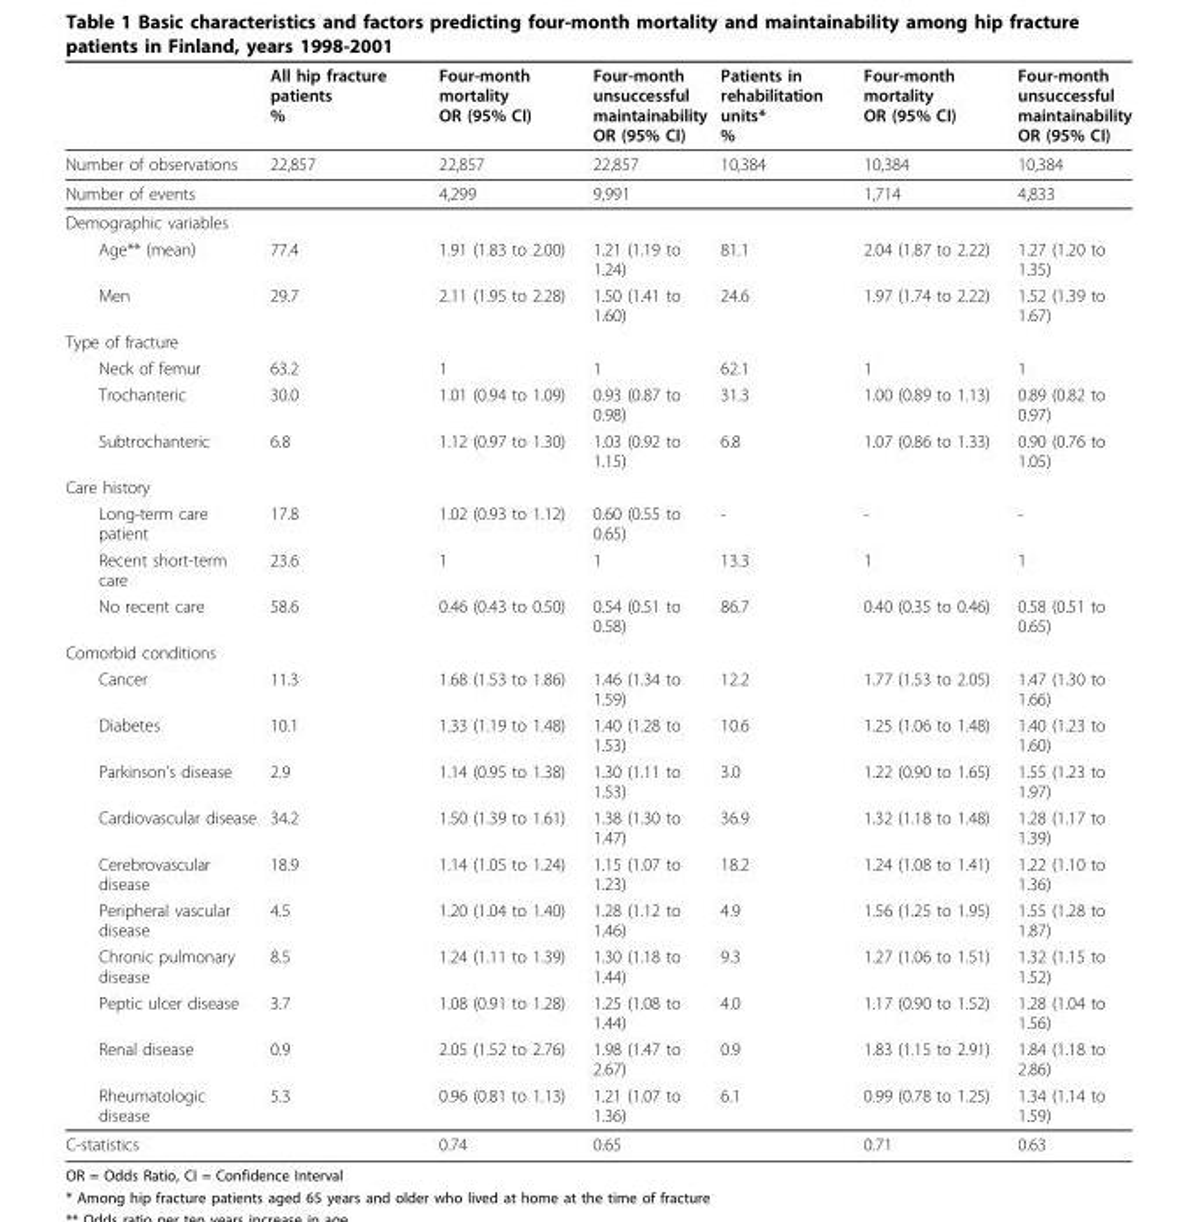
<table><thead><tr><td></td><td>All hip fracture patients %</td><td>Four-month mortality OR (95% CI)</td><td>Four-month unsuccessful maintainability OR (95% CI)</td><td>Patients in rehabilitation units* %</td><td>Four-month mortality OR (95% CI)</td><td>Four-month unsuccessful maintainability OR (95% CI)</td></tr></thead><tbody><tr><td>Number of observations</td><td>22,857</td><td>22,857</td><td>22,857</td><td>10,384</td><td>10,384</td><td>10,384</td></tr><tr><td>Number of events</td><td></td><td>4,299</td><td>9,991</td><td></td><td>1,714</td><td>4,833</td></tr><tr><td colspan="7">Demographic variables</td></tr><tr><td>Age** (mean)</td><td>77.4</td><td>1.91 (1.83 to 2.00)</td><td>1.21 (1.19 to 1.24)</td><td>81.1</td><td>2.04 (1.87 to 2.22)</td><td>1.27 (1.20 to 1.35)</td></tr><tr><td>Men</td><td>29.7</td><td>2.11 (1.95 to 2.28)</td><td>1.50 (1.41 to 1.60)</td><td>24.6</td><td>1.97 (1.74 to 2.22)</td><td>1.52 (1.39 to 1.67)</td></tr><tr><td colspan="7">Type of fracture</td></tr><tr><td>Neck of femur</td><td>63.2</td><td>1</td><td>1</td><td>62.1</td><td>1</td><td>1</td></tr><tr><td>Trochanteric</td><td>30.0</td><td>1.01 (0.94 to 1.09)</td><td>0.93 (0.87 to 0.98)</td><td>31.3</td><td>1.00 (0.89 to 1.13)</td><td>0.89 (0.82 to 0.97)</td></tr><tr><td>Subtrochanteric</td><td>6.8</td><td>1.12 (0.97 to 1.30)</td><td>1.03 (0.92 to 1.15)</td><td>6.8</td><td>1.07 (0.86 to 1.33)</td><td>0.90 (0.76 to 1.05)</td></tr><tr><td colspan="7">Care history</td></tr><tr><td>Long-term care patient</td><td>17.8</td><td>1.02 (0.93 to 1.12)</td><td>0.60 (0.55 to 0.65)</td><td>-</td><td>-</td><td>-</td></tr><tr><td>Recent short-term care</td><td>23.6</td><td>1</td><td>1</td><td>13.3</td><td>1</td><td>1</td></tr><tr><td>No recent care</td><td>58.6</td><td>0.46 (0.43 to 0.50)</td><td>0.54 (0.51 to 0.58)</td><td>86.7</td><td>0.40 (0.35 to 0.46)</td><td>0.58 (0.51 to 0.65)</td></tr><tr><td colspan="7">Comorbid conditions</td></tr><tr><td>Cancer</td><td>11.3</td><td>1.68 (1.53 to 1.86)</td><td>1.46 (1.34 to 1.59)</td><td>12.2</td><td>1.77 (1.53 to 2.05)</td><td>1.47 (1.30 to 1.66)</td></tr><tr><td>Diabetes</td><td>10.1</td><td>1.33 (1.19 to 1.48)</td><td>1.40 (1.28 to 1.53)</td><td>10.6</td><td>1.25 (1.06 to 1.48)</td><td>1.40 (1.23 to 1.60)</td></tr><tr><td>Parkinson’s disease</td><td>2.9</td><td>1.14 (0.95 to 1.38)</td><td>1.30 (1.11 to 1.53)</td><td>3.0</td><td>1.22 (0.90 to 1.65)</td><td>1.55 (1.23 to 1.97)</td></tr><tr><td>Cardiovascular disease</td><td>34.2</td><td>1.50 (1.39 to 1.61)</td><td>1.38 (1.30 to 1.47)</td><td>36.9</td><td>1.32 (1.18 to 1.48)</td><td>1.28 (1.17 to 1.39)</td></tr><tr><td>Cerebrovascular disease</td><td>18.9</td><td>1.14 (1.05 to 1.24)</td><td>1.15 (1.07 to 1.23)</td><td>18.2</td><td>1.24 (1.08 to 1.41)</td><td>1.22 (1.10 to 1.36)</td></tr><tr><td>Peripheral vascular disease</td><td>4.5</td><td>1.20 (1.04 to 1.40)</td><td>1.28 (1.12 to 1.46)</td><td>4.9</td><td>1.56 (1.25 to 1.95)</td><td>1.55 (1.28 to 1.87)</td></tr><tr><td>Chronic pulmonary disease</td><td>8.5</td><td>1.24 (1.11 to 1.39)</td><td>1.30 (1.18 to 1.44)</td><td>9.3</td><td>1.27 (1.06 to 1.51)</td><td>1.32 (1.15 to 1.52)</td></tr><tr><td>Peptic ulcer disease</td><td>3.7</td><td>1.08 (0.91 to 1.28)</td><td>1.25 (1.08 to 1.44)</td><td>4.0</td><td>1.17 (0.90 to 1.52)</td><td>1.28 (1.04 to 1.56)</td></tr><tr><td>Renal disease</td><td>0.9</td><td>2.05 (1.52 to 2.76)</td><td>1.98 (1.47 to 2.67)</td><td>0.9</td><td>1.83 (1.15 to 2.91)</td><td>1.84 (1.18 to 2.86)</td></tr><tr><td>Rheumatologic disease</td><td>5.3</td><td>0.96 (0.81 to 1.13)</td><td>1.21 (1.07 to 1.36)</td><td>6.1</td><td>0.99 (0.78 to 1.25)</td><td>1.34 (1.14 to 1.59)</td></tr><tr><td>C-statistics</td><td></td><td>0.74</td><td>0.65</td><td></td><td>0.71</td><td>0.63</td></tr></tbody></table>